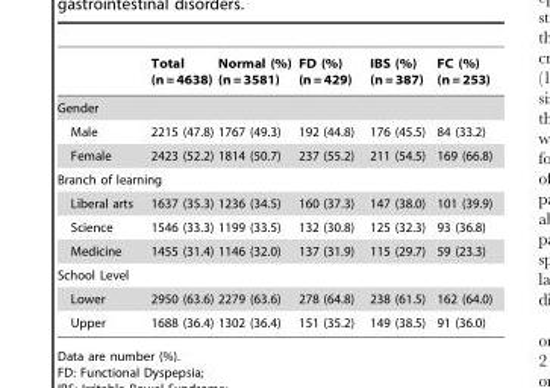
<table><thead><tr><td></td><td>Total (n = 4638)</td><td>Normal (%) (n = 3581)</td><td>FD (%) (n = 429)</td><td>IBS (%) (n = 387)</td><td>FC (%) (n = 253)</td></tr></thead><tbody><tr><td colspan="6">Gender</td></tr><tr><td>Male</td><td>2215 (47.8)</td><td>1767 (49.3)</td><td>192 (44.8)</td><td>176 (45.5)</td><td>84 (33.2)</td></tr><tr><td>Female</td><td>2423 (52.2)</td><td>1814 (50.7)</td><td>237 (55.2)</td><td>211 (54.5)</td><td>169 (66.8)</td></tr><tr><td colspan="6">Branch of learning</td></tr><tr><td>Liberal arts</td><td>1637 (35.3)</td><td>1236 (34.5)</td><td>160 (37.3)</td><td>147 (38.0)</td><td>101 (39.9)</td></tr><tr><td>Science</td><td>1546 (33.3)</td><td>1199 (33.5)</td><td>132 (30.8)</td><td>125 (32.3)</td><td>93 (36.8)</td></tr><tr><td>Medicine</td><td>1455 (31.4)</td><td>1146 (32.0)</td><td>137 (31.9)</td><td>115 (29.7)</td><td>59 (23.3)</td></tr><tr><td colspan="6">School Level</td></tr><tr><td>Lower</td><td>2950 (63.6)</td><td>2279 (63.6)</td><td>278 (64.8)</td><td>238 (61.5)</td><td>162 (64.0)</td></tr><tr><td>Upper</td><td>1688 (36.4)</td><td>1302 (36.4)</td><td>151 (35.2)</td><td>149 (38.5)</td><td>91 (36.0)</td></tr></tbody></table>